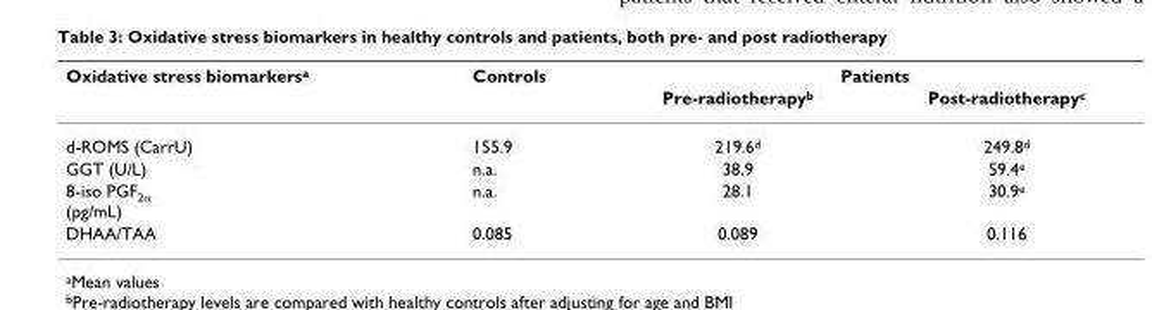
<table><thead><tr><td rowspan="2">Oxidative stress biomarkers<sup>a</sup></td><td rowspan="2">Controls</td><td colspan="2">Patients</td></tr><tr><td>Pre-radiotherapy<sup>b</sup></td><td>Post-radiotherapy<sup>c</sup></td></tr></thead><tbody><tr><td>d-ROMS (CarrU)</td><td>155.9</td><td>219.6<sup>d</sup></td><td>249.8<sup>d</sup></td></tr><tr><td>GGT (U/L)</td><td>n.a.</td><td>38.9</td><td>59.4<sup>e</sup></td></tr><tr><td>8-iso PGF<sub>2α</sub> (pg/mL)</td><td>n.a.</td><td>28.1</td><td>30.9<sup>e</sup></td></tr><tr><td>DHAA/TAA</td><td>0.085</td><td>0.089</td><td>0.116</td></tr></tbody></table>